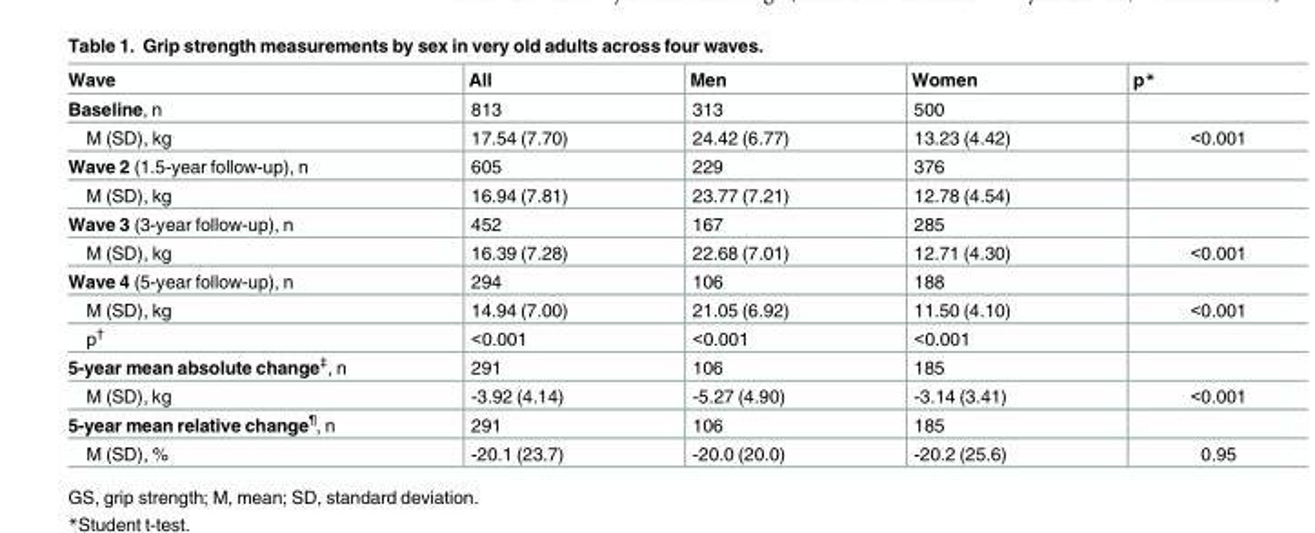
<table><thead><tr><td>Wave</td><td>All</td><td>Men</td><td>Women</td><td>p*</td></tr></thead><tbody><tr><td>Baseline, n</td><td>813</td><td>313</td><td>500</td><td></td></tr><tr><td>M (SD), kg</td><td>17.54 (7.70)</td><td>24.42 (6.77)</td><td>13.23 (4.42)</td><td>&lt;0.001</td></tr><tr><td>Wave 2 (1.5-year follow-up), n</td><td>605</td><td>229</td><td>376</td><td></td></tr><tr><td>M (SD), kg</td><td>16.94 (7.81)</td><td>23.77 (7.21)</td><td>12.78 (4.54)</td><td></td></tr><tr><td>Wave 3 (3-year follow-up), n</td><td>452</td><td>167</td><td>285</td><td></td></tr><tr><td>M (SD), kg</td><td>16.39 (7.28)</td><td>22.68 (7.01)</td><td>12.71 (4.30)</td><td>&lt;0.001</td></tr><tr><td>Wave 4 (5-year follow-up), n</td><td>294</td><td>106</td><td>188</td><td></td></tr><tr><td>M (SD), kg</td><td>14.94 (7.00)</td><td>21.05 (6.92)</td><td>11.50 (4.10)</td><td>&lt;0.001</td></tr><tr><td>p<sup>†</sup></td><td>&lt;0.001</td><td>&lt;0.001</td><td>&lt;0.001</td><td></td></tr><tr><td>5-year mean absolute change<sup>‡</sup>, n</td><td>291</td><td>106</td><td>185</td><td></td></tr><tr><td>M (SD), kg</td><td>-3.92 (4.14)</td><td>-5.27 (4.90)</td><td>-3.14 (3.41)</td><td>&lt;0.001</td></tr><tr><td>5-year mean relative change<sup>¶</sup>, n</td><td>291</td><td>106</td><td>185</td><td></td></tr><tr><td>M (SD), %</td><td>-20.1 (23.7)</td><td>-20.0 (20.0)</td><td>-20.2 (25.6)</td><td>0.95</td></tr></tbody></table>